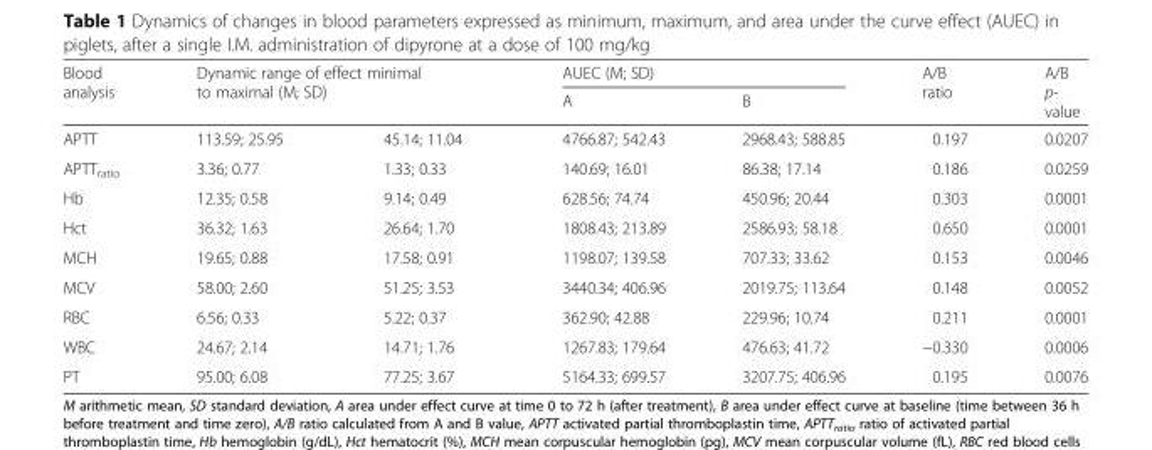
<table><thead><tr><td rowspan="3">Blood analysis APTT</td><td rowspan="2" colspan="2">Dynamic range of effect minimal to maximal (M; SD)</td><td colspan="2">AUEC (M; SD)</td><td rowspan="3">A/B ratio 0.197</td><td rowspan="3">A/B p- value 0.0207</td></tr><tr><td rowspan="2">A 4766.87; 542.43</td><td rowspan="2">B 2968.43; 588.85</td></tr><tr><td>113.59; 25.95</td><td>45.14; 11.04</td></tr></thead><tbody><tr><td>APTT<sub>ratio</sub></td><td>3.36; 0.77</td><td>1.33; 0.33</td><td>140.69; 16.01</td><td>86.38; 17.14</td><td>0.186</td><td>0.0259</td></tr><tr><td>Hb</td><td>12.35; 0.58</td><td>9.14; 0.49</td><td>628.56; 74.74</td><td>450.96; 20.44</td><td>0.303</td><td>0.0001</td></tr><tr><td>Hct</td><td>36.32; 1.63</td><td>26.64; 1.70</td><td>1808.43; 213.89</td><td>2586.93; 58.18</td><td>0.650</td><td>0.0001</td></tr><tr><td>MCH</td><td>19.65; 0.88</td><td>17.58; 0.91</td><td>1198.07; 139.58</td><td>707.33; 33.62</td><td>0.153</td><td>0.0046</td></tr><tr><td>MCV</td><td>58.00; 2.60</td><td>51.25; 3.53</td><td>3440.34; 406.96</td><td>2019.75; 113.64</td><td>0.148</td><td>0.0052</td></tr><tr><td>RBC</td><td>6.56; 0.33</td><td>5.22; 0.37</td><td>362.90; 42.88</td><td>229.96; 10.74</td><td>0.211</td><td>0.0001</td></tr><tr><td>WBC</td><td>24.67; 2.14</td><td>14.71; 1.76</td><td>1267.83; 179.64</td><td>476.63; 41.72</td><td>−0.330</td><td>0.0006</td></tr><tr><td>PT</td><td>95.00; 6.08</td><td>77.25; 3.67</td><td>5164.33; 699.57</td><td>3207.75; 406.96</td><td>0.195</td><td>0.0076</td></tr></tbody></table>